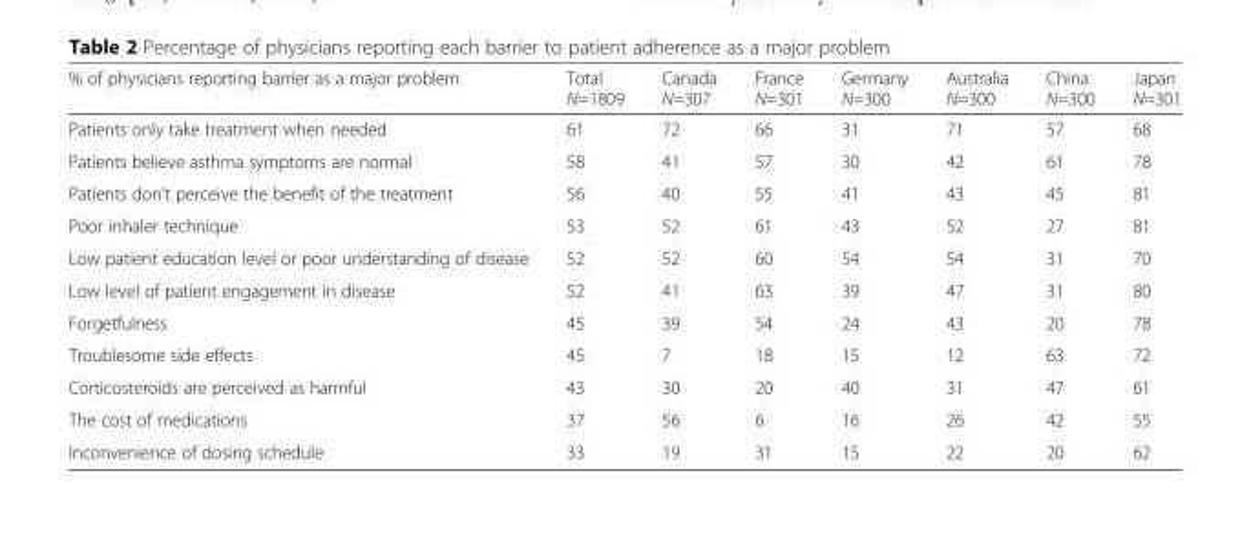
<table><thead><tr><td>% of physicians reporting barrier as a major problem</td><td>Total N=1809</td><td>Canada N=307</td><td>France N=301</td><td>Germany N=300</td><td>Australia N=300</td><td>China N=300</td><td>Japan N=301</td></tr></thead><tbody><tr><td>Patients only take treatment when needed</td><td>61</td><td>72</td><td>66</td><td>31</td><td>71</td><td>57</td><td>68</td></tr><tr><td>Patients believe asthma symptoms are normal</td><td>58</td><td>41</td><td>57</td><td>30</td><td>42</td><td>61</td><td>78</td></tr><tr><td>Patients don’t perceive the benefit of the treatment</td><td>56</td><td>40</td><td>55</td><td>41</td><td>43</td><td>45</td><td>81</td></tr><tr><td>Poor inhaler technique</td><td>53</td><td>52</td><td>61</td><td>43</td><td>52</td><td>27</td><td>81</td></tr><tr><td>Low patient education level or poor understanding of disease</td><td>52</td><td>52</td><td>60</td><td>54</td><td>54</td><td>31</td><td>70</td></tr><tr><td>Low level of patient engagement in disease</td><td>52</td><td>41</td><td>63</td><td>39</td><td>47</td><td>31</td><td>80</td></tr><tr><td>Forgetfulness</td><td>45</td><td>39</td><td>54</td><td>24</td><td>43</td><td>20</td><td>78</td></tr><tr><td>Troublesome side effects</td><td>45</td><td>7</td><td>18</td><td>15</td><td>12</td><td>63</td><td>72</td></tr><tr><td>Corticosteroids are perceived as harmful</td><td>43</td><td>30</td><td>20</td><td>40</td><td>31</td><td>47</td><td>61</td></tr><tr><td>The cost of medications</td><td>37</td><td>56</td><td>6</td><td>16</td><td>26</td><td>42</td><td>55</td></tr><tr><td>Inconvenience of dosing schedule</td><td>33</td><td>19</td><td>31</td><td>15</td><td>22</td><td>20</td><td>62</td></tr></tbody></table>